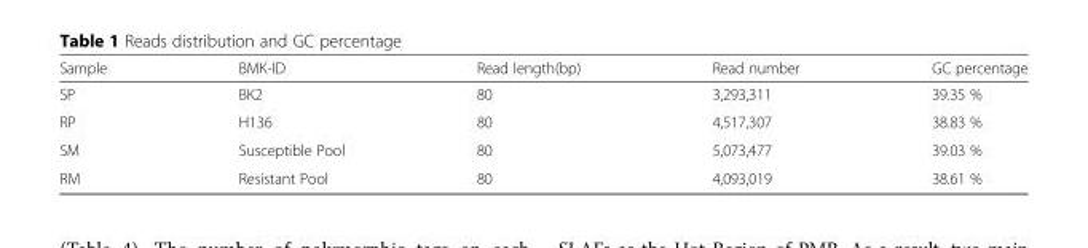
<table><thead><tr><td>Sample</td><td>BMK-ID</td><td>Read length(bp)</td><td>Read number</td><td>GC percentage</td></tr></thead><tbody><tr><td>SP</td><td>BK2</td><td>80</td><td>3,293,311</td><td>39.35 %</td></tr><tr><td>RP</td><td>H136</td><td>80</td><td>4,517,307</td><td>38.83 %</td></tr><tr><td>SM</td><td>Susceptible Pool</td><td>80</td><td>5,073,477</td><td>39.03 %</td></tr><tr><td>RM</td><td>Resistant Pool</td><td>80</td><td>4,093,019</td><td>38.61 %</td></tr></tbody></table>